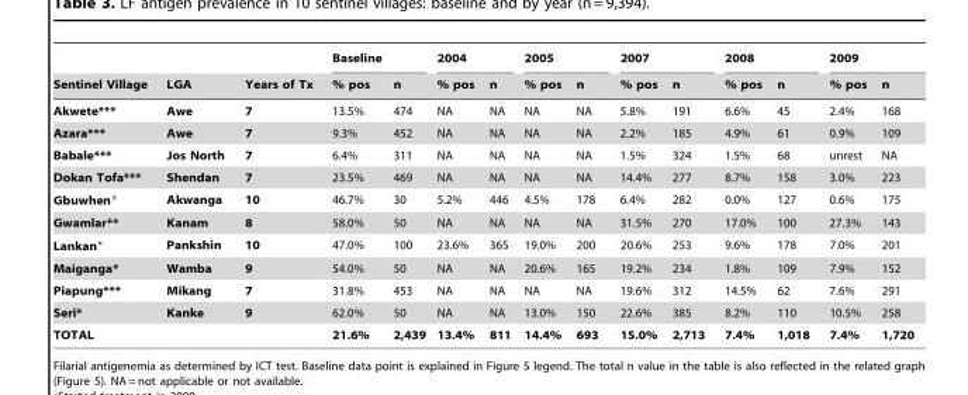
<table><thead><tr><td rowspan="2">Sentinel Village</td><td rowspan="2">LGA</td><td rowspan="2">Years of Tx</td><td colspan="2">Baseline</td><td colspan="2">2004</td><td colspan="2">2005</td><td colspan="2">2007</td><td colspan="2">2008</td><td colspan="2">2009</td></tr><tr><td>% pos</td><td>n</td><td>% pos</td><td>n</td><td>% pos</td><td>n</td><td>% pos</td><td>n</td><td>% pos</td><td>n</td><td>% pos</td><td>n</td></tr></thead><tbody><tr><td>Akwete***</td><td>Awe</td><td>7</td><td>13.5%</td><td>474</td><td>NA</td><td>NA</td><td>NA</td><td>NA</td><td>5.8%</td><td>191</td><td>6.6%</td><td>45</td><td>2.4%</td><td>168</td></tr><tr><td>Azara***</td><td>Awe</td><td>7</td><td>9.3%</td><td>452</td><td>NA</td><td>NA</td><td>NA</td><td>NA</td><td>2.2%</td><td>185</td><td>4.9%</td><td>61</td><td>0.9%</td><td>109</td></tr><tr><td>Babale***</td><td>Jos North</td><td>7</td><td>6.4%</td><td>311</td><td>NA</td><td>NA</td><td>NA</td><td>NA</td><td>1.5%</td><td>324</td><td>1.5%</td><td>68</td><td>unrest</td><td>NA</td></tr><tr><td>Dokan Tofa***</td><td>Shendan</td><td>7</td><td>23.5%</td><td>469</td><td>NA</td><td>NA</td><td>NA</td><td>NA</td><td>14.4%</td><td>277</td><td>8.7%</td><td>158</td><td>3.0%</td><td>223</td></tr><tr><td>Gbuwhen°</td><td>Akwanga</td><td>10</td><td>46.7%</td><td>30</td><td>5.2%</td><td>446</td><td>4.5%</td><td>178</td><td>6.4%</td><td>282</td><td>0.0%</td><td>127</td><td>0.6%</td><td>175</td></tr><tr><td>Gwamlar**</td><td>Kanam</td><td>8</td><td>58.0%</td><td>50</td><td>NA</td><td>NA</td><td>NA</td><td>NA</td><td>31.5%</td><td>270</td><td>17.0%</td><td>100</td><td>27.3%</td><td>143</td></tr><tr><td>Lankan°</td><td>Pankshin</td><td>10</td><td>47.0%</td><td>100</td><td>23.6%</td><td>365</td><td>19.0%</td><td>200</td><td>20.6%</td><td>253</td><td>9.6%</td><td>178</td><td>7.0%</td><td>201</td></tr><tr><td>Maiganga*</td><td>Wamba</td><td>9</td><td>54.0%</td><td>50</td><td>NA</td><td>NA</td><td>20.6%</td><td>165</td><td>19.2%</td><td>234</td><td>1.8%</td><td>109</td><td>7.9%</td><td>152</td></tr><tr><td>Piapung***</td><td>Mikang</td><td>7</td><td>31.8%</td><td>453</td><td>NA</td><td>NA</td><td>NA</td><td>NA</td><td>19.6%</td><td>312</td><td>14.5%</td><td>62</td><td>7.6%</td><td>291</td></tr><tr><td>Seri*</td><td>Kanke</td><td>9</td><td>62.0%</td><td>50</td><td>NA</td><td>NA</td><td>13.0%</td><td>150</td><td>22.6%</td><td>385</td><td>8.2%</td><td>110</td><td>10.5%</td><td>258</td></tr><tr><td colspan="3">TOTAL</td><td>21.6%</td><td>2,439</td><td>13.4%</td><td>811</td><td>14.4%</td><td>693</td><td>15.0%</td><td>2,713</td><td>7.4%</td><td>1,018</td><td>7.4%</td><td>1,720</td></tr></tbody></table>